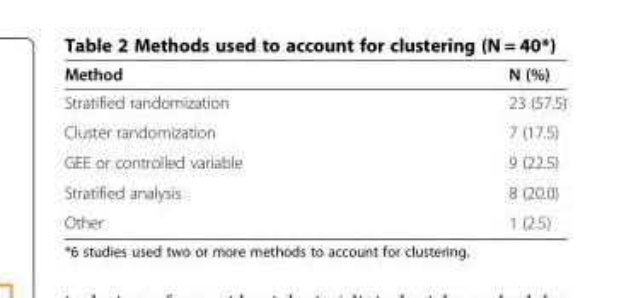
<table><thead><tr><td>Method</td><td>N (%)</td></tr></thead><tbody><tr><td>Stratified randomization</td><td>23 (57.5)</td></tr><tr><td>Cluster randomization</td><td>7 (17.5)</td></tr><tr><td>GEE or controlled variable</td><td>9 (22.5)</td></tr><tr><td>Stratified analysis</td><td>8 (20.0)</td></tr><tr><td>Other</td><td>1 (2.5)</td></tr></tbody></table>